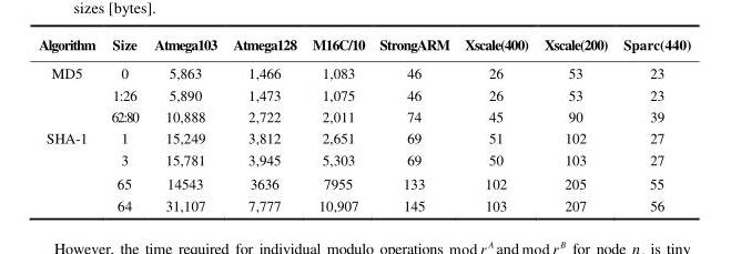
<table><thead><tr><td>Algorithm</td><td>Size</td><td>Atmega103</td><td>Atmega128</td><td>M16C/10</td><td>StrongARM</td><td>Xscale(400)</td><td>Xscale(200)</td><td>Sparc(440)</td></tr></thead><tbody><tr><td rowspan="3">MD5</td><td>0</td><td>5,863</td><td>1,466</td><td>1,083</td><td>46</td><td>26</td><td>53</td><td>23</td></tr><tr><td>1:26</td><td>5,890</td><td>1,473</td><td>1,075</td><td>46</td><td>26</td><td>53</td><td>23</td></tr><tr><td>62:80</td><td>10,888</td><td>2,722</td><td>2,011</td><td>74</td><td>45</td><td>90</td><td>39</td></tr><tr><td rowspan="4">SHA-1</td><td>1</td><td>15,249</td><td>3,812</td><td>2,651</td><td>69</td><td>51</td><td>102</td><td>27</td></tr><tr><td>3</td><td>15,781</td><td>3,945</td><td>5,303</td><td>69</td><td>50</td><td>103</td><td>27</td></tr><tr><td>65</td><td>14543</td><td>3636</td><td>7955</td><td>133</td><td>102</td><td>205</td><td>55</td></tr><tr><td>64</td><td>31,107</td><td>7,777</td><td>10,907</td><td>145</td><td>103</td><td>207</td><td>56</td></tr></tbody></table>